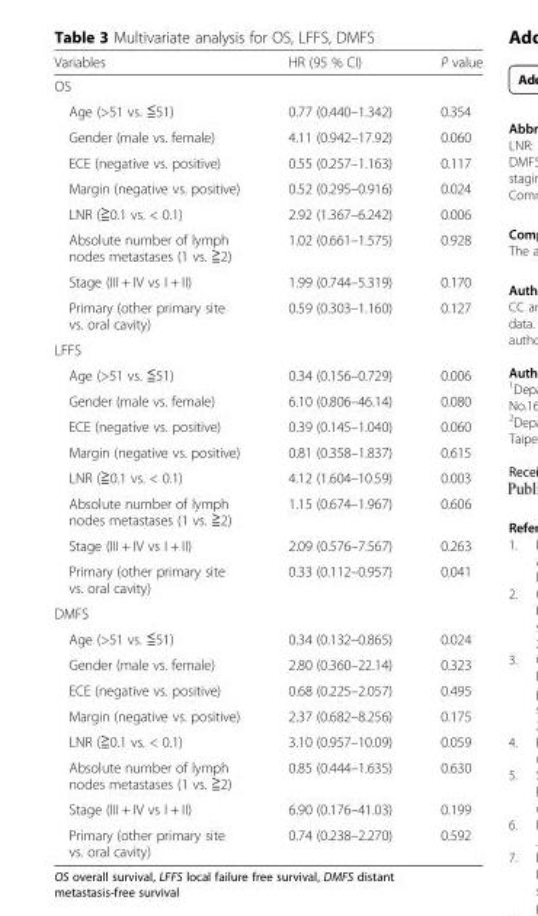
<table><thead><tr><td>Variables</td><td>HR (95 % CI)</td><td>P value</td></tr></thead><tbody><tr><td colspan="3">OS</td></tr><tr><td>Age (&gt;51 vs. ≦51)</td><td>0.77 (0.440–1.342)</td><td>0.354</td></tr><tr><td>Gender (male vs. female)</td><td>4.11 (0.942–17.92)</td><td>0.060</td></tr><tr><td>ECE (negative vs. positive)</td><td>0.55 (0.257–1.163)</td><td>0.117</td></tr><tr><td>Margin (negative vs. positive)</td><td>0.52 (0.295–0.916)</td><td>0.024</td></tr><tr><td>LNR (≧0.1 vs. &lt; 0.1)</td><td>2.92 (1.367–6.242)</td><td>0.006</td></tr><tr><td>Absolute number of lymph nodes metastases (1 vs. ≧2)</td><td>1.02 (0.661–1.575)</td><td>0.928</td></tr><tr><td>Stage (III + IV vs I + II)</td><td>1.99 (0.744–5.319)</td><td>0.170</td></tr><tr><td>Primary (other primary site vs. oral cavity)</td><td>0.59 (0.303–1.160)</td><td>0.127</td></tr><tr><td colspan="3">LFFS</td></tr><tr><td>Age (&gt;51 vs. ≦51)</td><td>0.34 (0.156–0.729)</td><td>0.006</td></tr><tr><td>Gender (male vs. female)</td><td>6.10 (0.806–46.14)</td><td>0.080</td></tr><tr><td>ECE (negative vs. positive)</td><td>0.39 (0.145–1.040)</td><td>0.060</td></tr><tr><td>Margin (negative vs. positive)</td><td>0.81 (0.358–1.837)</td><td>0.615</td></tr><tr><td>LNR (≧0.1 vs. &lt; 0.1)</td><td>4.12 (1.604–10.59)</td><td>0.003</td></tr><tr><td>Absolute number of lymph nodes metastases (1 vs. ≧2)</td><td>1.15 (0.674–1.967)</td><td>0.606</td></tr><tr><td>Stage (III + IV vs I + II)</td><td>2.09 (0.576–7.567)</td><td>0.263</td></tr><tr><td>Primary (other primary site vs. oral cavity)</td><td>0.33 (0.112–0.957)</td><td>0.041</td></tr><tr><td colspan="3">DMFS</td></tr><tr><td>Age (&gt;51 vs. ≦51)</td><td>0.34 (0.132–0.865)</td><td>0.024</td></tr><tr><td>Gender (male vs. female)</td><td>2.80 (0.360–22.14)</td><td>0.323</td></tr><tr><td>ECE (negative vs. positive)</td><td>0.68 (0.225–2.057)</td><td>0.495</td></tr><tr><td>Margin (negative vs. positive)</td><td>2.37 (0.682–8.256)</td><td>0.175</td></tr><tr><td>LNR (≧0.1 vs. &lt; 0.1)</td><td>3.10 (0.957–10.09)</td><td>0.059</td></tr><tr><td>Absolute number of lymph nodes metastases (1 vs. ≧2)</td><td>0.85 (0.444–1.635)</td><td>0.630</td></tr><tr><td>Stage (III + IV vs I + II)</td><td>6.90 (0.176–41.03)</td><td>0.199</td></tr><tr><td>Primary (other primary site vs. oral cavity)</td><td>0.74 (0.238–2.270)</td><td>0.592</td></tr></tbody></table>